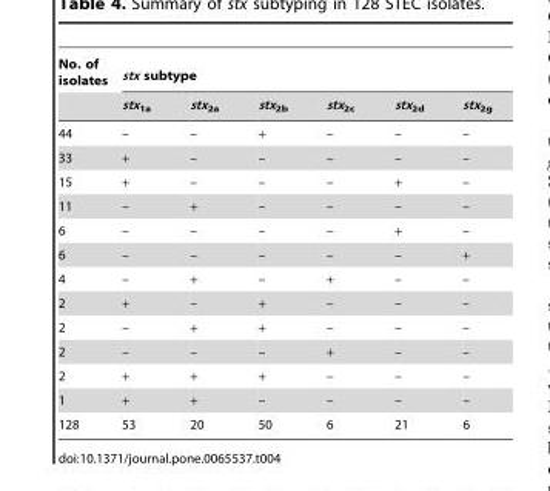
<table><thead><tr><td rowspan="2">No. of isolates</td><td colspan="6">stx subtype</td></tr><tr><td>stx<sub>1a</sub></td><td>stx<sub>2a</sub></td><td>stx<sub>2b</sub></td><td>stx<sub>2c</sub></td><td>stx<sub>2d</sub></td><td>stx<sub>2g</sub></td></tr></thead><tbody><tr><td>44</td><td>–</td><td>–</td><td>+</td><td>–</td><td>–</td><td>–</td></tr><tr><td>33</td><td>+</td><td>–</td><td>–</td><td>–</td><td>–</td><td>–</td></tr><tr><td>15</td><td>+</td><td>–</td><td>–</td><td>–</td><td>+</td><td>–</td></tr><tr><td>11</td><td>–</td><td>+</td><td>–</td><td>–</td><td>–</td><td>–</td></tr><tr><td>6</td><td>–</td><td>–</td><td>–</td><td>–</td><td>+</td><td>–</td></tr><tr><td>6</td><td>–</td><td>–</td><td>–</td><td>–</td><td>–</td><td>+</td></tr><tr><td>4</td><td>–</td><td>+</td><td>–</td><td>+</td><td>–</td><td>–</td></tr><tr><td>2</td><td>+</td><td>–</td><td>+</td><td>–</td><td>–</td><td>–</td></tr><tr><td>2</td><td>–</td><td>+</td><td>+</td><td>–</td><td>–</td><td>–</td></tr><tr><td>2</td><td>–</td><td>–</td><td>–</td><td>+</td><td>–</td><td>–</td></tr><tr><td>2</td><td>+</td><td>+</td><td>+</td><td>–</td><td>–</td><td>–</td></tr><tr><td>1</td><td>+</td><td>+</td><td>–</td><td>–</td><td>–</td><td>–</td></tr><tr><td>128</td><td>53</td><td>20</td><td>50</td><td>6</td><td>21</td><td>6</td></tr></tbody></table>